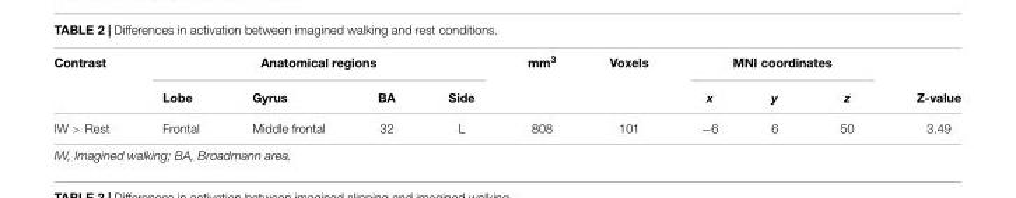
<table><thead><tr><td rowspan="2">Contrast</td><td colspan="4">Anatomical regions</td><td rowspan="2">mm<sup>3</sup></td><td rowspan="2">Voxels</td><td colspan="3">MNI coordinates</td><td rowspan="2">Z-value</td></tr><tr><td>Lobe</td><td>Gyrus</td><td>BA</td><td>Side</td><td>x</td><td>y</td><td>z</td></tr></thead><tbody><tr><td>IW &gt; Rest</td><td>Frontal</td><td>Middle frontal</td><td>32</td><td>L</td><td>808</td><td>101</td><td>−6</td><td>6</td><td>50</td><td>3.49</td></tr></tbody></table>